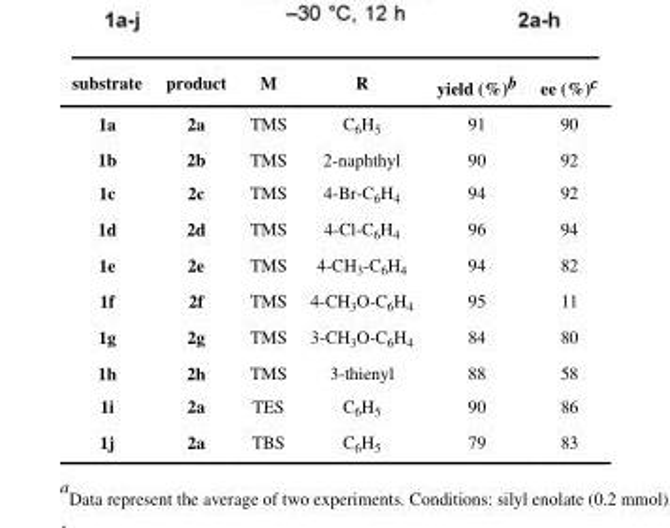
<table><thead><tr><td>substrate</td><td>product</td><td>M</td><td>R</td><td>yield (%)<sup>b</sup></td><td>ee (%)<sup>c</sup></td></tr></thead><tbody><tr><td>1a</td><td>2a</td><td>TMS</td><td>C<sub>6</sub>H<sub>5</sub></td><td>91</td><td>90</td></tr><tr><td>1b</td><td>2b</td><td>TMS</td><td>2-naphthyl</td><td>90</td><td>92</td></tr><tr><td>1c</td><td>2c</td><td>TMS</td><td>4-Br-C<sub>6</sub>H<sub>4</sub></td><td>94</td><td>92</td></tr><tr><td>1d</td><td>2d</td><td>TMS</td><td>4-Cl-C<sub>6</sub>H<sub>4</sub></td><td>96</td><td>94</td></tr><tr><td>1e</td><td>2e</td><td>TMS</td><td>4-CH<sub>3</sub>-C<sub>6</sub>H<sub>4</sub></td><td>94</td><td>82</td></tr><tr><td>1f</td><td>2f</td><td>TMS</td><td>4-CH<sub>3</sub>O-C<sub>6</sub>H<sub>4</sub></td><td>95</td><td>11</td></tr><tr><td>1g</td><td>2g</td><td>TMS</td><td>3-CH<sub>3</sub>O-C<sub>6</sub>H<sub>4</sub></td><td>84</td><td>80</td></tr><tr><td>1h</td><td>2h</td><td>TMS</td><td>3-thienyl</td><td>88</td><td>58</td></tr><tr><td>1i</td><td>2a</td><td>TES</td><td>C<sub>6</sub>H<sub>5</sub></td><td>90</td><td>86</td></tr><tr><td>1j</td><td>2a</td><td>TBS</td><td>C<sub>6</sub>H<sub>5</sub></td><td>79</td><td>83</td></tr></tbody></table>